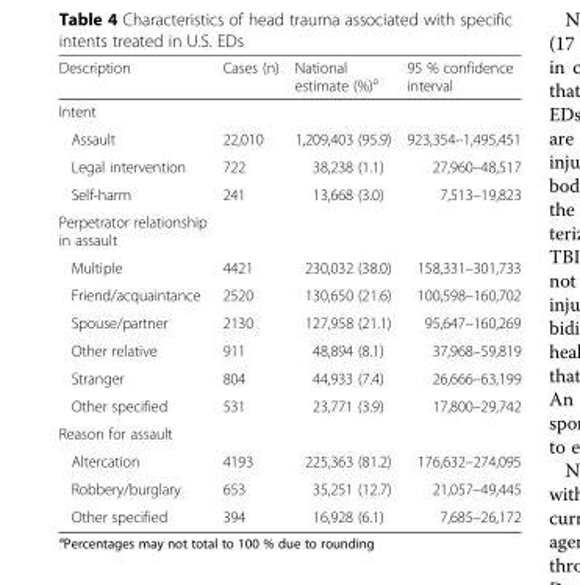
<table><thead><tr><td>Description</td><td>Cases (n)</td><td>National estimate (%)<sup>a</sup></td><td>95 % confidence interval</td></tr></thead><tbody><tr><td colspan="4">Intent</td></tr><tr><td>Assault</td><td>22,010</td><td>1,209,403 (95.9)</td><td>923,354–1,495,451</td></tr><tr><td>Legal intervention</td><td>722</td><td>38,238 (1.1)</td><td>27,960–48,517</td></tr><tr><td>Self-harm</td><td>241</td><td>13,668 (3.0)</td><td>7,513–19,823</td></tr><tr><td colspan="4">Perpetrator relationship in assault</td></tr><tr><td>Multiple</td><td>4421</td><td>230,032 (38.0)</td><td>158,331–301,733</td></tr><tr><td>Friend/acquaintance</td><td>2520</td><td>130,650 (21.6)</td><td>100,598–160,702</td></tr><tr><td>Spouse/partner</td><td>2130</td><td>127,958 (21.1)</td><td>95,647–160,269</td></tr><tr><td>Other relative</td><td>911</td><td>48,894 (8.1)</td><td>37,968–59,819</td></tr><tr><td>Stranger</td><td>804</td><td>44,933 (7.4)</td><td>26,666–63,199</td></tr><tr><td>Other specified</td><td>531</td><td>23,771 (3.9)</td><td>17,800–29,742</td></tr><tr><td colspan="4">Reason for assault</td></tr><tr><td>Altercation</td><td>4193</td><td>225,363 (81.2)</td><td>176,632–274,095</td></tr><tr><td>Robbery/burglary</td><td>653</td><td>35,251 (12.7)</td><td>21,057–49,445</td></tr><tr><td>Other specified</td><td>394</td><td>16,928 (6.1)</td><td>7,685–26,172</td></tr></tbody></table>